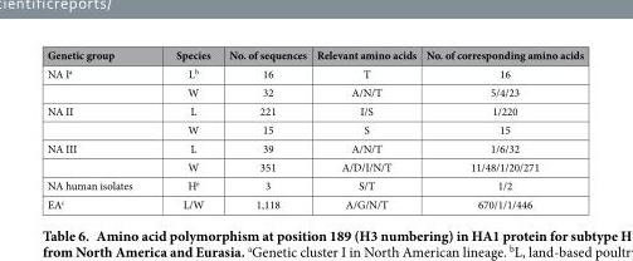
<table><thead><tr><td>Genetic group</td><td>Species</td><td>No. of sequences</td><td>Relevant amino acids</td><td>No. of corresponding amino acids</td></tr></thead><tbody><tr><td rowspan="2">NA I<sup>a</sup></td><td>L<sup>b</sup></td><td>16</td><td>T</td><td>16</td></tr><tr><td>W</td><td>32</td><td>A/N/T</td><td>5/4/23</td></tr><tr><td rowspan="2">NA II</td><td>L</td><td>221</td><td>I/S</td><td>1/220</td></tr><tr><td>W</td><td>15</td><td>S</td><td>15</td></tr><tr><td rowspan="2">NA III</td><td>L</td><td>39</td><td>A/N/T</td><td>1/6/32</td></tr><tr><td>W</td><td>351</td><td>A/D/I/N/T</td><td>11/48/1/20/271</td></tr><tr><td>NA human isolates</td><td>H<sup>e</sup></td><td>3</td><td>S/T</td><td>1/2</td></tr><tr><td>EA<sup>c</sup></td><td>L/W</td><td>1,118</td><td>A/G/N/T</td><td>670/1/1/446</td></tr></tbody></table>